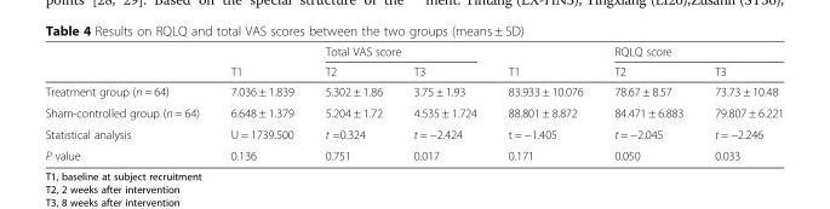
<table><thead><tr><td rowspan="2"></td><td rowspan="2">T1</td><td colspan="2">Total VAS score</td><td rowspan="2">T1</td><td colspan="2">RQLQ score</td></tr><tr><td>T2</td><td>T3</td><td>T2</td><td>T3</td></tr></thead><tbody><tr><td>Treatment group (n = 64)</td><td>7.036 ± 1.839</td><td>5.302 ± 1.86</td><td>3.75 ± 1.93</td><td>83.933 ± 10.076</td><td>78.67 ± 8.57</td><td>73.73 ± 10.48</td></tr><tr><td>Sham-controlled group (n = 64)</td><td>6.648 ± 1.379</td><td>5.204 ± 1.72</td><td>4.535 ± 1.724</td><td>88.801 ± 8.872</td><td>84.471 ± 6.883</td><td>79.807 ± 6.221</td></tr><tr><td>Statistical analysis</td><td>U = 1739.500</td><td>t =0.324</td><td>t = −2.424</td><td>t = −1.405</td><td>t = −2.045</td><td>t = −2.246</td></tr><tr><td>P value</td><td>0.136</td><td>0.751</td><td>0.017</td><td>0.171</td><td>0.050</td><td>0.033</td></tr></tbody></table>